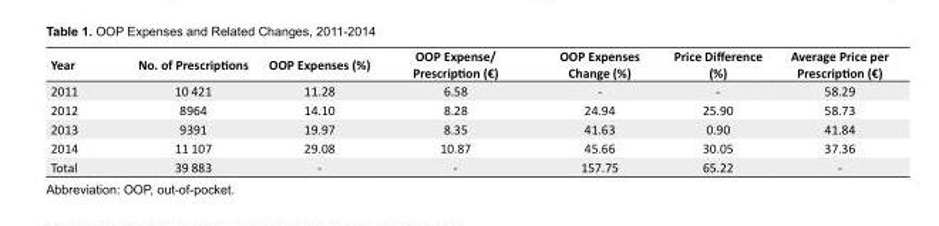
<table><tbody><tr><td>Year</td><td>No. of Prescriptions</td><td>OOP Expenses (%)</td><td>OOP Expense/ Prescription (€)</td><td>OOP Expenses Change (%)</td><td>Price Difference (%)</td><td>Average Price per Prescription (€)</td></tr><tr><td>2011</td><td>10 421</td><td>11.28</td><td>6.58</td><td>-</td><td>-</td><td>58.29</td></tr><tr><td>2012</td><td>8964</td><td>14.10</td><td>8.28</td><td>24.94</td><td>25.90</td><td>58.73</td></tr><tr><td>2013</td><td>9391</td><td>19.97</td><td>8.35</td><td>41.63</td><td>0.90</td><td>41.84</td></tr><tr><td>2014</td><td>11 107</td><td>29.08</td><td>10.87</td><td>45.66</td><td>30.05</td><td>37.36</td></tr><tr><td>Total</td><td>39 883</td><td>-</td><td>-</td><td>157.75</td><td>65.22</td><td>-</td></tr></tbody></table>